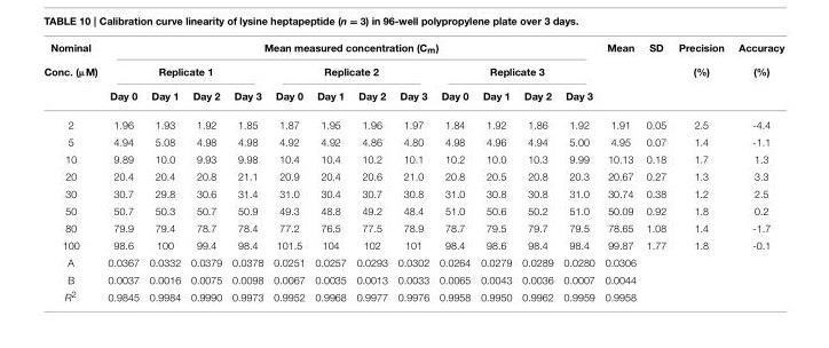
<table><thead><tr><td rowspan="3">Nominal Conc. (µM)</td><td colspan="12">Mean measured concentration (C<sub>m</sub>)</td><td rowspan="3">Mean</td><td rowspan="3">SD</td><td rowspan="3">Precision (%)</td><td rowspan="3">Accuracy (%)</td></tr><tr><td colspan="4">Replicate 1</td><td colspan="4">Replicate 2</td><td colspan="4">Replicate 3</td></tr><tr><td>Day 0</td><td>Day 1</td><td>Day 2</td><td>Day 3</td><td>Day 0</td><td>Day 1</td><td>Day 2</td><td>Day 3</td><td>Day 0</td><td>Day 1</td><td>Day 2</td><td>Day 3</td></tr></thead><tbody><tr><td>2</td><td>1.96</td><td>1.93</td><td>1.92</td><td>1.85</td><td>1.87</td><td>1.95</td><td>1.96</td><td>1.97</td><td>1.84</td><td>1.92</td><td>1.86</td><td>1.92</td><td>1.91</td><td>0.05</td><td>2.5</td><td>-4.4</td></tr><tr><td>5</td><td>4.94</td><td>5.08</td><td>4.98</td><td>4.98</td><td>4.92</td><td>4.92</td><td>4.86</td><td>4.80</td><td>4.98</td><td>4.96</td><td>4.94</td><td>5.00</td><td>4.95</td><td>0.07</td><td>1.4</td><td>-1.1</td></tr><tr><td>10</td><td>9.89</td><td>10.0</td><td>9.93</td><td>9.98</td><td>10.4</td><td>10.4</td><td>10.2</td><td>10.1</td><td>10.2</td><td>10.0</td><td>10.3</td><td>9.99</td><td>10.13</td><td>0.18</td><td>1.7</td><td>1.3</td></tr><tr><td>20</td><td>20.4</td><td>20.4</td><td>20.8</td><td>21.1</td><td>20.9</td><td>20.4</td><td>20.6</td><td>21.0</td><td>20.8</td><td>20.5</td><td>20.8</td><td>20.3</td><td>20.67</td><td>0.27</td><td>1.3</td><td>3.3</td></tr><tr><td>30</td><td>30.7</td><td>29.8</td><td>30.6</td><td>31.4</td><td>31.0</td><td>30.4</td><td>30.7</td><td>30.8</td><td>31.0</td><td>30.8</td><td>30.8</td><td>31.0</td><td>30.74</td><td>0.38</td><td>1.2</td><td>2.5</td></tr><tr><td>50</td><td>50.7</td><td>50.3</td><td>50.7</td><td>50.9</td><td>49.3</td><td>48.8</td><td>49.2</td><td>48.4</td><td>51.0</td><td>50.6</td><td>50.2</td><td>51.0</td><td>50.09</td><td>0.92</td><td>1.8</td><td>0.2</td></tr><tr><td>80</td><td>79.9</td><td>79.4</td><td>78.7</td><td>78.4</td><td>77.2</td><td>76.5</td><td>77.5</td><td>78.9</td><td>78.7</td><td>79.5</td><td>79.7</td><td>79.5</td><td>78.65</td><td>1.08</td><td>1.4</td><td>-1.7</td></tr><tr><td>100</td><td>98.6</td><td>100</td><td>99.4</td><td>98.4</td><td>101.5</td><td>104</td><td>102</td><td>101</td><td>98.4</td><td>98.6</td><td>98.4</td><td>98.4</td><td>99.87</td><td>1.77</td><td>1.8</td><td>-0.1</td></tr><tr><td>A</td><td>0.0367</td><td>0.0332</td><td>0.0379</td><td>0.0378</td><td>0.0251</td><td>0.0257</td><td>0.0293</td><td>0.0302</td><td>0.0264</td><td>0.0279</td><td>0.0289</td><td>0.0280</td><td>0.0306</td><td></td><td></td><td></td></tr><tr><td>B</td><td>0.0037</td><td>0.0016</td><td>0.0075</td><td>0.0098</td><td>0.0067</td><td>0.0035</td><td>0.0013</td><td>0.0033</td><td>0.0065</td><td>0.0043</td><td>0.0036</td><td>0.0007</td><td>0.0044</td><td></td><td></td><td></td></tr><tr><td>R<sup>2</sup></td><td>0.9845</td><td>0.9984</td><td>0.9990</td><td>0.9973</td><td>0.9952</td><td>0.9968</td><td>0.9977</td><td>0.9976</td><td>0.9958</td><td>0.9950</td><td>0.9962</td><td>0.9959</td><td>0.9958</td><td></td><td></td><td></td></tr></tbody></table>